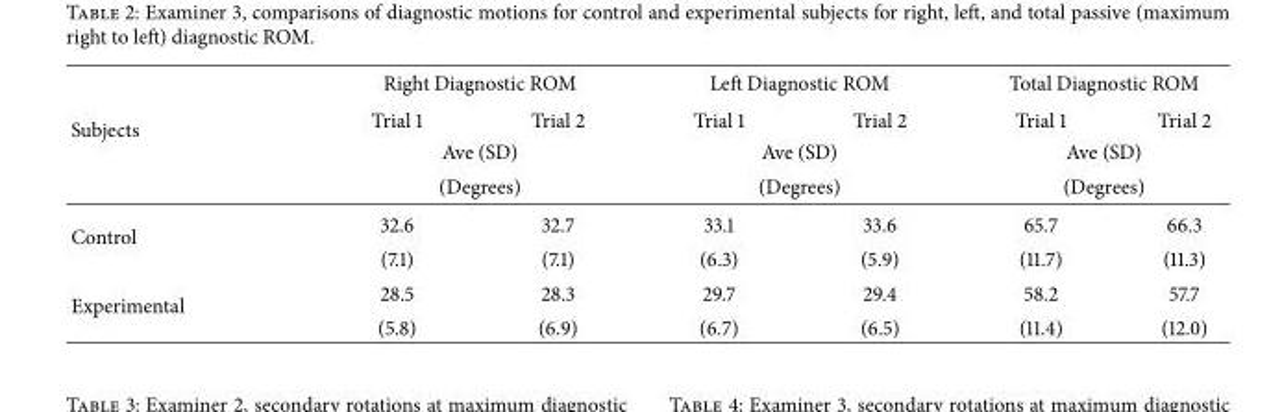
<table><thead><tr><td rowspan="4">Subjects</td><td colspan="2">Right Diagnostic ROM</td><td colspan="2">Left Diagnostic ROM</td><td colspan="2">Total Diagnostic ROM</td></tr><tr><td>Trial 1</td><td>Trial 2</td><td>Trial 1</td><td>Trial 2</td><td>Trial 1</td><td>Trial 2</td></tr><tr><td rowspan="2" colspan="2">Ave (SD) (Degrees)</td><td rowspan="2" colspan="2">Ave (SD) (Degrees)</td><td rowspan="2" colspan="2">Ave (SD) (Degrees)</td></tr><tr></tr></thead><tbody><tr><td rowspan="2">Control</td><td>32.6</td><td>32.7</td><td>33.1</td><td>33.6</td><td>65.7</td><td>66.3</td></tr><tr><td>(7.1)</td><td>(7.1)</td><td>(6.3)</td><td>(5.9)</td><td>(11.7)</td><td>(11.3)</td></tr><tr><td rowspan="2">Experimental</td><td>28.5</td><td>28.3</td><td>29.7</td><td>29.4</td><td>58.2</td><td>57.7</td></tr><tr><td>(5.8)</td><td>(6.9)</td><td>(6.7)</td><td>(6.5)</td><td>(11.4)</td><td>(12.0)</td></tr></tbody></table>